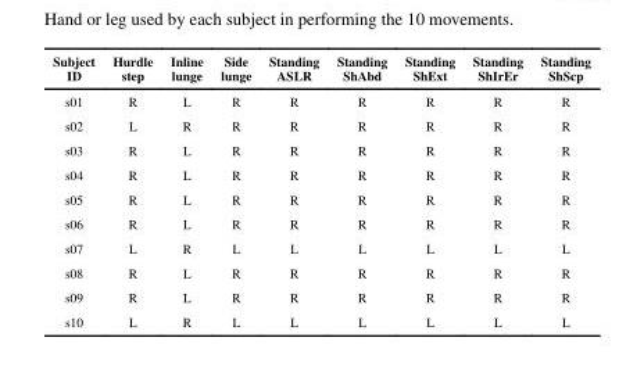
<table><thead><tr><td>Subject ID</td><td>Hurdle step</td><td>Inline lunge</td><td>Side lunge</td><td>Standing ASLR</td><td>Standing ShAbd</td><td>Standing ShExt</td><td>Standing ShIrEr</td><td>Standing ShScp</td></tr></thead><tbody><tr><td>s01</td><td>R</td><td>L</td><td>R</td><td>R</td><td>R</td><td>R</td><td>R</td><td>R</td></tr><tr><td>s02</td><td>L</td><td>R</td><td>R</td><td>R</td><td>R</td><td>R</td><td>R</td><td>R</td></tr><tr><td>s03</td><td>R</td><td>L</td><td>R</td><td>R</td><td>R</td><td>R</td><td>R</td><td>R</td></tr><tr><td>s04</td><td>R</td><td>L</td><td>R</td><td>R</td><td>R</td><td>R</td><td>R</td><td>R</td></tr><tr><td>s05</td><td>R</td><td>L</td><td>R</td><td>R</td><td>R</td><td>R</td><td>R</td><td>R</td></tr><tr><td>s06</td><td>R</td><td>L</td><td>R</td><td>R</td><td>R</td><td>R</td><td>R</td><td>R</td></tr><tr><td>s07</td><td>L</td><td>R</td><td>L</td><td>L</td><td>L</td><td>L</td><td>L</td><td>L</td></tr><tr><td>s08</td><td>R</td><td>L</td><td>R</td><td>R</td><td>R</td><td>R</td><td>R</td><td>R</td></tr><tr><td>s09</td><td>R</td><td>L</td><td>R</td><td>R</td><td>R</td><td>R</td><td>R</td><td>R</td></tr><tr><td>s10</td><td>L</td><td>R</td><td>L</td><td>L</td><td>L</td><td>L</td><td>L</td><td>L</td></tr></tbody></table>